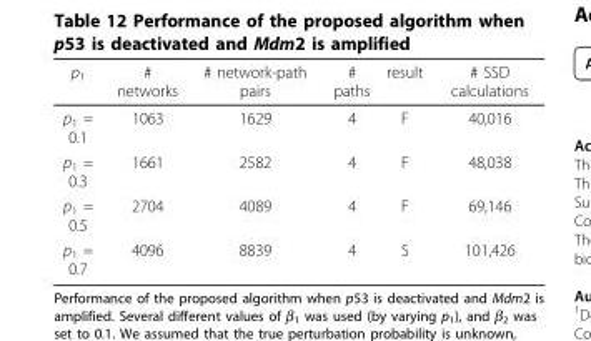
<table><thead><tr><td>p<sub>1</sub></td><td># networks</td><td># network-path pairs</td><td># paths</td><td>result</td><td># SSD calculations</td></tr></thead><tbody><tr><td>p<sub>1</sub> = 0.1</td><td>1063</td><td>1629</td><td>4</td><td>F</td><td>40,016</td></tr><tr><td>p<sub>1</sub> = 0.3</td><td>1661</td><td>2582</td><td>4</td><td>F</td><td>48,038</td></tr><tr><td>p<sub>1</sub> = 0.5</td><td>2704</td><td>4089</td><td>4</td><td>F</td><td>69,146</td></tr><tr><td>p<sub>1</sub> = 0.7</td><td>4096</td><td>8839</td><td>4</td><td>S</td><td>101,426</td></tr></tbody></table>